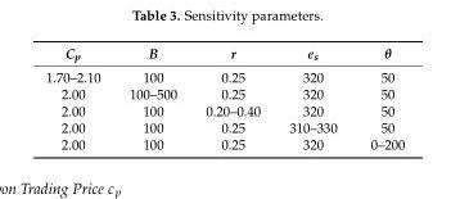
<table><thead><tr><td>C<sub>p</sub></td><td>B</td><td>r</td><td>e<sub>s</sub></td><td>θ</td></tr></thead><tbody><tr><td>1.70–2.10</td><td>100</td><td>0.25</td><td>320</td><td>50</td></tr><tr><td>2.00</td><td>100–500</td><td>0.25</td><td>320</td><td>50</td></tr><tr><td>2.00</td><td>100</td><td>0.20–0.40</td><td>320</td><td>50</td></tr><tr><td>2.00</td><td>100</td><td>0.25</td><td>310–330</td><td>50</td></tr><tr><td>2.00</td><td>100</td><td>0.25</td><td>320</td><td>0–200</td></tr></tbody></table>